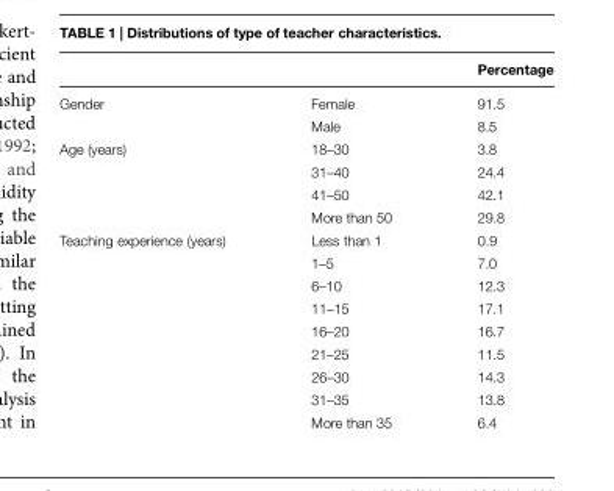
<table><thead><tr><td></td><td></td><td>Percentage</td></tr></thead><tbody><tr><td rowspan="2">Gender</td><td>Female</td><td>91.5</td></tr><tr><td>Male</td><td>8.5</td></tr><tr><td rowspan="4">Age (years)</td><td>18–30</td><td>3.8</td></tr><tr><td>31–40</td><td>24.4</td></tr><tr><td>41–50</td><td>42.1</td></tr><tr><td>More than 50</td><td>29.8</td></tr><tr><td rowspan="9">Teaching experience (years)</td><td>Less than 1</td><td>0.9</td></tr><tr><td>1–5</td><td>7.0</td></tr><tr><td>6–10</td><td>12.3</td></tr><tr><td>11–15</td><td>17.1</td></tr><tr><td>16–20</td><td>16.7</td></tr><tr><td>21–25</td><td>11.5</td></tr><tr><td>26–30</td><td>14.3</td></tr><tr><td>31–35</td><td>13.8</td></tr><tr><td>More than 35</td><td>6.4</td></tr></tbody></table>